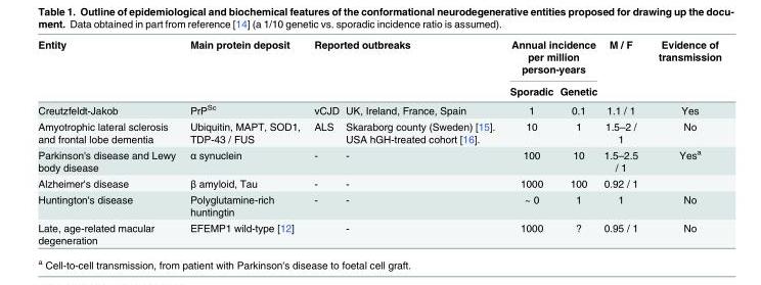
<table><thead><tr><td rowspan="2">Entity</td><td rowspan="2">Main protein deposit</td><td colspan="2">Reported outbreaks</td><td colspan="2">Annual incidence per million person-years</td><td rowspan="2">M / F</td><td rowspan="2">Evidence of transmission</td></tr><tr><td></td><td></td><td>Sporadic</td><td>Genetic</td></tr></thead><tbody><tr><td>Creutzfeldt-Jakob</td><td>PrP<sup>Sc</sup></td><td>vCJD</td><td>UK, Ireland, France, Spain</td><td>1</td><td>0.1</td><td>1.1 / 1</td><td>Yes</td></tr><tr><td>Amyotrophic lateral sclerosis and frontal lobe dementia</td><td>Ubiquitin, MAPT, SOD1, TDP-43 / FUS</td><td>ALS</td><td>Skaraborg county (Sweden) [15]. USA hGH-treated cohort [16].</td><td>10</td><td>1</td><td>1.5–2 / 1</td><td>No</td></tr><tr><td>Parkinson&#x27;s disease and Lewy body disease</td><td>α synuclein</td><td>-</td><td>-</td><td>100</td><td>10</td><td>1.5–2.5 / 1</td><td>Yes<sup>a</sup></td></tr><tr><td>Alzheimer&#x27;s disease</td><td>β amyloid, Tau</td><td>-</td><td>-</td><td>1000</td><td>100</td><td>0.92 / 1</td><td></td></tr><tr><td>Huntington&#x27;s disease</td><td>Polyglutamine-rich huntingtin</td><td>-</td><td>-</td><td>~ 0</td><td>1</td><td>1</td><td>No</td></tr><tr><td>Late, age-related macular degeneration</td><td>EFEMP1 wild-type [12]</td><td></td><td>-</td><td>1000</td><td>?</td><td>0.95 / 1</td><td>No</td></tr></tbody></table>